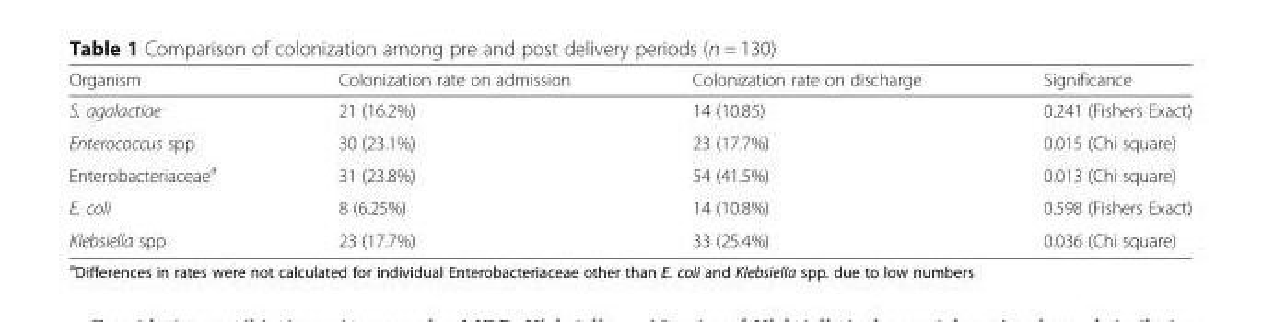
<table><thead><tr><td>Organism</td><td>Colonization rate on admission</td><td>Colonization rate on discharge</td><td>Significance</td></tr></thead><tbody><tr><td>S. agalactiae</td><td>21 (16.2%)</td><td>14 (10.85)</td><td>0.241 (Fishers Exact)</td></tr><tr><td>Enterococcus spp</td><td>30 (23.1%)</td><td>23 (17.7%)</td><td>0.015 (Chi square)</td></tr><tr><td>Enterobacteriaceae<sup>a</sup></td><td>31 (23.8%)</td><td>54 (41.5%)</td><td>0.013 (Chi square)</td></tr><tr><td>E. coli</td><td>8 (6.25%)</td><td>14 (10.8%)</td><td>0.598 (Fishers Exact)</td></tr><tr><td>Klebsiella spp</td><td>23 (17.7%)</td><td>33 (25.4%)</td><td>0.036 (Chi square)</td></tr></tbody></table>